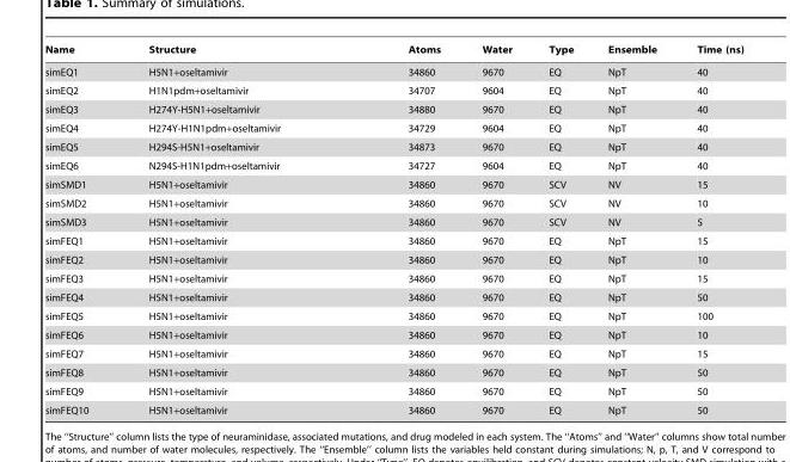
<table><thead><tr><td>Name</td><td>Structure</td><td>Atoms</td><td>Water</td><td>Type</td><td>Ensemble</td><td>Time (ns)</td></tr></thead><tbody><tr><td>simEQ1</td><td>H5N1+oseltamivir</td><td>34860</td><td>9670</td><td>EQ</td><td>NpT</td><td>40</td></tr><tr><td>simEQ2</td><td>H1N1pdm+oseltamivir</td><td>34707</td><td>9604</td><td>EQ</td><td>NpT</td><td>40</td></tr><tr><td>simEQ3</td><td>H274Y-H5N1+oseltamivir</td><td>34880</td><td>9670</td><td>EQ</td><td>NpT</td><td>40</td></tr><tr><td>simEQ4</td><td>H274Y-H1N1pdm+oseltamivir</td><td>34729</td><td>9604</td><td>EQ</td><td>NpT</td><td>40</td></tr><tr><td>simEQ5</td><td>H294S-H5N1+oseltamivir</td><td>34873</td><td>9670</td><td>EQ</td><td>NpT</td><td>40</td></tr><tr><td>simEQ6</td><td>N294S-H1N1pdm+oseltamivir</td><td>34727</td><td>9604</td><td>EQ</td><td>NpT</td><td>40</td></tr><tr><td>simSMD1</td><td>H5N1+oseltamivir</td><td>34860</td><td>9670</td><td>SCV</td><td>NV</td><td>15</td></tr><tr><td>simSMD2</td><td>H5N1+oseltamivir</td><td>34860</td><td>9670</td><td>SCV</td><td>NV</td><td>10</td></tr><tr><td>simSMD3</td><td>H5N1+oseltamivir</td><td>34860</td><td>9670</td><td>SCV</td><td>NV</td><td>5</td></tr><tr><td>simFEQ1</td><td>H5N1+oseltamivir</td><td>34860</td><td>9670</td><td>EQ</td><td>NpT</td><td>15</td></tr><tr><td>simFEQ2</td><td>H5N1+oseltamivir</td><td>34860</td><td>9670</td><td>EQ</td><td>NpT</td><td>10</td></tr><tr><td>simFEQ3</td><td>H5N1+oseltamivir</td><td>34860</td><td>9670</td><td>EQ</td><td>NpT</td><td>15</td></tr><tr><td>simFEQ4</td><td>H5N1+oseltamivir</td><td>34860</td><td>9670</td><td>EQ</td><td>NpT</td><td>50</td></tr><tr><td>simFEQ5</td><td>H5N1+oseltamivir</td><td>34860</td><td>9670</td><td>EQ</td><td>NpT</td><td>100</td></tr><tr><td>simFEQ6</td><td>H5N1+oseltamivir</td><td>34860</td><td>9670</td><td>EQ</td><td>NpT</td><td>10</td></tr><tr><td>simFEQ7</td><td>H5N1+oseltamivir</td><td>34860</td><td>9670</td><td>EQ</td><td>NpT</td><td>15</td></tr><tr><td>simFEQ8</td><td>H5N1+oseltamivir</td><td>34860</td><td>9670</td><td>EQ</td><td>NpT</td><td>50</td></tr><tr><td>simFEQ9</td><td>H5N1+oseltamivir</td><td>34860</td><td>9670</td><td>EQ</td><td>NpT</td><td>50</td></tr><tr><td>simFEQ10</td><td>H5N1+oseltamivir</td><td>34860</td><td>9670</td><td>EQ</td><td>NpT</td><td>50</td></tr></tbody></table>